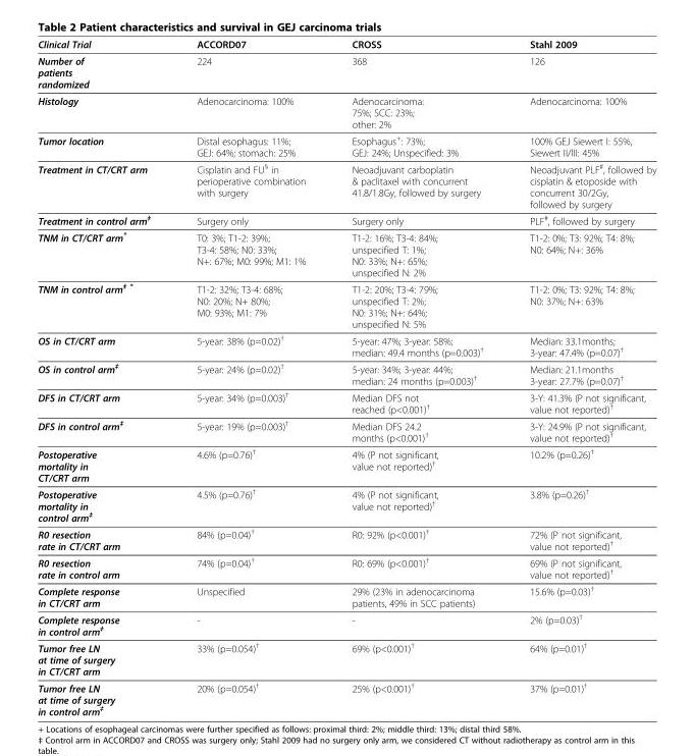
<table><thead><tr><td>Clinical Trial</td><td>ACCORD07</td><td>CROSS</td><td>Stahl 2009</td></tr></thead><tbody><tr><td>Number of patients randomized</td><td>224</td><td>368</td><td>126</td></tr><tr><td>Histology</td><td>Adenocarcinoma: 100%</td><td>Adenocarcinoma: 75%; SCC: 23%; other: 2%</td><td>Adenocarcinoma: 100%</td></tr><tr><td>Tumor location</td><td>Distal esophagus: 11%; GEJ: 64%; stomach: 25%</td><td>Esophagus<sup>+</sup>: 73%; GEJ: 24%; Unspecified: 3%</td><td>100% GEJ Siewert I: 55%, Siewert II/III: 45%</td></tr><tr><td>Treatment in CT/CRT arm</td><td>Cisplatin and FU<sup>§</sup> in perioperative combination with surgery</td><td>Neoadjuvant carboplatin &amp; paclitaxel with concurrent 41.8/1.8Gy, followed by surgery</td><td>Neoadjuvant PLF<sup>#</sup>, followed by cisplatin &amp; etoposide with concurrent 30/2Gy, followed by surgery</td></tr><tr><td>Treatment in control arm<sup>‡</sup></td><td>Surgery only</td><td>Surgery only</td><td>PLF<sup>#</sup>, followed by surgery</td></tr><tr><td>TNM in CT/CRT arm*</td><td>T0: 3%; T1-2: 39%; T3-4: 58%; N0: 33%; N+: 67%; M0: 99%; M1: 1%</td><td>T1-2: 16%; T3-4: 84%; unspecified T: 1%; N0: 33%; N+: 65%; unspecified N: 2%</td><td>T1-2: 0%; T3: 92%; T4: 8%; N0: 64%; N+: 36%</td></tr><tr><td>TNM in control arm<sup>‡ *</sup></td><td>T1-2: 32%; T3-4: 68%; N0: 20%; N+ 80%; M0: 93%; M1: 7%</td><td>T1-2: 20%; T3-4: 79%; unspecified T: 2%; N0: 31%; N+: 64%; unspecified N: 5%</td><td>T1-2: 0%; T3: 92%; T4: 8%; N0: 37%; N+: 63%</td></tr><tr><td>OS in CT/CRT arm</td><td>5-year: 38% (p=0.02)<sup>†</sup></td><td>5-year: 47%; 3-year: 58%; median: 49.4 months (p=0.003)<sup>†</sup></td><td>Median: 33.1months; 3-year: 47.4% (p=0.07)<sup>†</sup></td></tr><tr><td>OS in control arm<sup>‡</sup></td><td>5-year: 24% (p=0.02)<sup>†</sup></td><td>5-year: 34%; 3-year: 44%; median: 24 months (p=0.003)<sup>†</sup></td><td>Median: 21.1months 3-year: 27.7% (p=0.07)<sup>†</sup></td></tr><tr><td>DFS in CT/CRT arm</td><td>5-year: 34% (p=0.003)<sup>†</sup></td><td>Median DFS not reached (p&lt;0.001)<sup>†</sup></td><td>3-Y: 41.3% (P not significant, value not reported)<sup>†</sup></td></tr><tr><td>DFS in control arm<sup>‡</sup></td><td>5-year: 19% (p=0.003)<sup>†</sup></td><td>Median DFS 24.2 months (p&lt;0.001)<sup>†</sup></td><td>3-Y: 24.9% (P not significant, value not reported)<sup>†</sup></td></tr><tr><td>Postoperative mortality in CT/CRT arm</td><td>4.6% (p=0.76)<sup>†</sup></td><td>4% (P not significant, value not reported)<sup>†</sup></td><td>10.2% (p=0.26)<sup>†</sup></td></tr><tr><td>Postoperative mortality in control arm<sup>‡</sup></td><td>4.5% (p=0.76)<sup>†</sup></td><td>4% (P not significant, value not reported)<sup>†</sup></td><td>3.8% (p=0.26)<sup>†</sup></td></tr><tr><td>R0 resection rate in CT/CRT arm</td><td>84% (p=0.04)<sup>†</sup></td><td>R0: 92% (p&lt;0.001)<sup>†</sup></td><td>72% (P not significant, value not reported)<sup>†</sup></td></tr><tr><td>R0 resection rate in control arm</td><td>74% (p=0.04)<sup>†</sup></td><td>R0: 69% (p&lt;0.001)<sup>†</sup></td><td>69% (P not significant, value not reported)<sup>†</sup></td></tr><tr><td>Complete response in CT/CRT arm</td><td>Unspecified</td><td>29% (23% in adenocarcinoma patients, 49% in SCC patients)</td><td>15.6% (p=0.03)<sup>†</sup></td></tr><tr><td>Complete response in control arm<sup>‡</sup></td><td>-</td><td>-</td><td>2% (p=0.03)<sup>†</sup></td></tr><tr><td>Tumor free LN at time of surgery in CT/CRT arm</td><td>33% (p=0.054)<sup>†</sup></td><td>69% (p&lt;0.001)<sup>†</sup></td><td>64% (p=0.01)<sup>†</sup></td></tr><tr><td>Tumor free LN at time of surgery in control arm<sup>‡</sup></td><td>20% (p=0.054)<sup>†</sup></td><td>25% (p&lt;0.001)<sup>†</sup></td><td>37% (p=0.01)<sup>†</sup></td></tr></tbody></table>